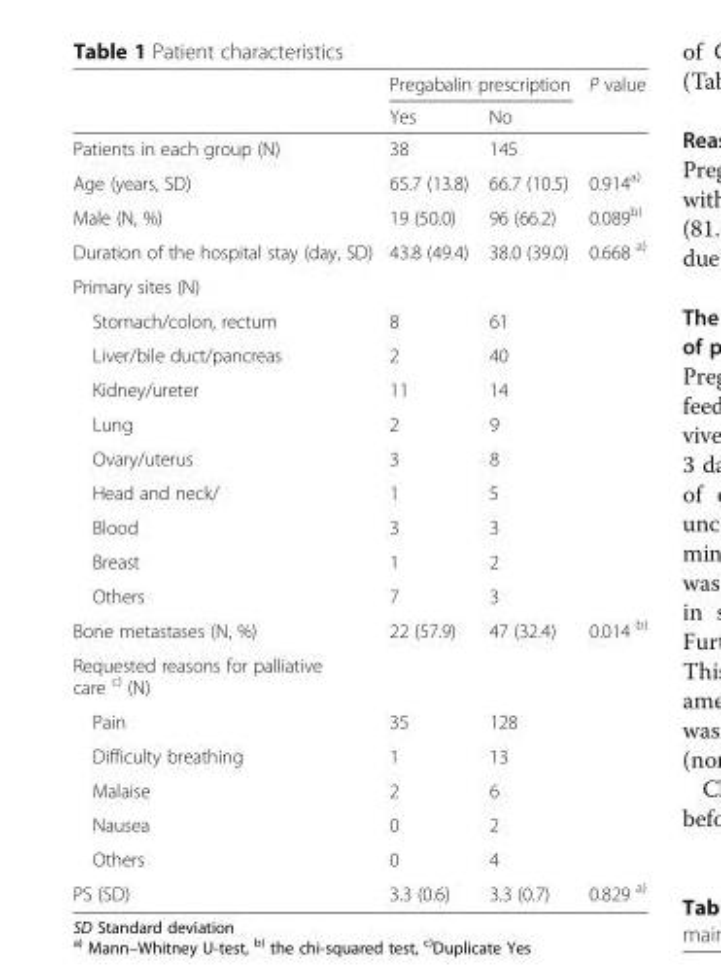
<table><thead><tr><td rowspan="2"></td><td colspan="2">Pregabalin prescription</td><td rowspan="2">P value</td></tr><tr><td>Yes</td><td>No</td></tr></thead><tbody><tr><td>Patients in each group (N)</td><td>38</td><td>145</td><td></td></tr><tr><td>Age (years, SD)</td><td>65.7 (13.8)</td><td>66.7 (10.5)</td><td>0.914<sup>a)</sup></td></tr><tr><td>Male (N, %)</td><td>19 (50.0)</td><td>96 (66.2)</td><td>0.089<sup>b)</sup></td></tr><tr><td>Duration of the hospital stay (day, SD)</td><td>43.8 (49.4)</td><td>38.0 (39.0)</td><td>0.668 <sup>a)</sup></td></tr><tr><td colspan="4">Primary sites (N)</td></tr><tr><td>Stomach/colon, rectum</td><td>8</td><td>61</td><td rowspan="9"></td></tr><tr><td>Liver/bile duct/pancreas</td><td>2</td><td>40</td></tr><tr><td>Kidney/ureter</td><td>11</td><td>14</td></tr><tr><td>Lung</td><td>2</td><td>9</td></tr><tr><td>Ovary/uterus</td><td>3</td><td>8</td></tr><tr><td>Head and neck/</td><td>1</td><td>5</td></tr><tr><td>Blood</td><td>3</td><td>3</td></tr><tr><td>Breast</td><td>1</td><td>2</td></tr><tr><td>Others</td><td>7</td><td>3</td></tr><tr><td>Bone metastases (N, %)</td><td>22 (57.9)</td><td>47 (32.4)</td><td>0.014 <sup>b)</sup></td></tr><tr><td colspan="4">Requested reasons for palliative care <sup>c)</sup> (N)</td></tr><tr><td>Pain</td><td>35</td><td>128</td><td></td></tr><tr><td>Difficulty breathing</td><td>1</td><td>13</td><td></td></tr><tr><td>Malaise</td><td>2</td><td>6</td><td></td></tr><tr><td>Nausea</td><td>0</td><td>2</td><td></td></tr><tr><td>Others</td><td>0</td><td>4</td><td></td></tr><tr><td>PS (SD)</td><td>3.3 (0.6)</td><td>3.3 (0.7)</td><td>0.829 <sup>a)</sup></td></tr></tbody></table>